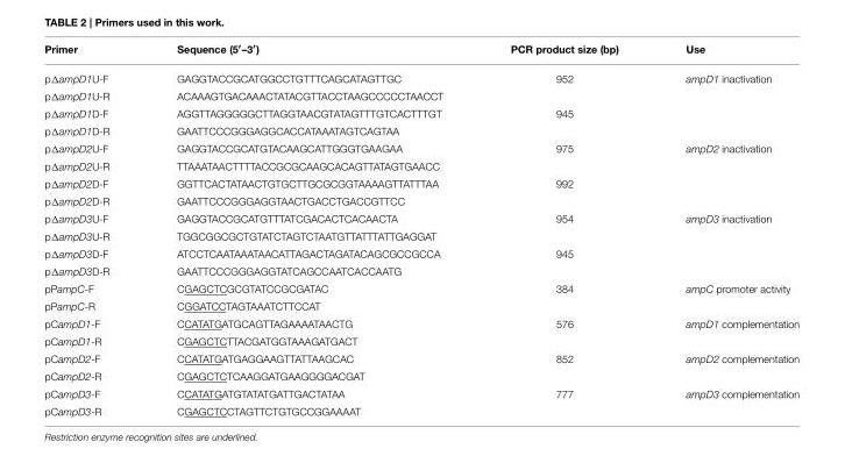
<table><thead><tr><td>Primer</td><td>Sequence (5′–3′)</td><td>PCR product size (bp)</td><td>Use</td></tr></thead><tbody><tr><td>pΔampD1U-F</td><td>GAGGTACCGCATGGCCTGTTTCAGCATAGTTGC</td><td>952</td><td>ampD1 inactivation</td></tr><tr><td>pΔampD1U-R</td><td>ACAAAGTGACAAACTATACGTTACCTAAGCCCCCTAACCT</td><td></td><td></td></tr><tr><td>pΔampD1D-F</td><td>AGGTTAGGGGGCTTAGGTAACGTATAGTTTGTCACTTTGT</td><td>945</td><td></td></tr><tr><td>pΔampD1D-R</td><td>GAATTCCCGGGAGGCACCATAAATAGTCAGTAA</td><td></td><td></td></tr><tr><td>pΔampD2U-F</td><td>GAGGTACCGCATGTACAAGCATTGGGTGAAGAA</td><td>975</td><td>ampD2 inactivation</td></tr><tr><td>pΔampD2U-R</td><td>TTAAATAACTTTTACCGCGCAAGCACAGTTATAGTGAACC</td><td></td><td></td></tr><tr><td>pΔampD2D-F</td><td>GGTTCACTATAACTGTGCTTGCGCGGTAAAAGTTATTTAA</td><td>992</td><td></td></tr><tr><td>pΔampD2D-R</td><td>GAATTCCCGGGAGGTAACTGACCTGACCGTTCC</td><td></td><td></td></tr><tr><td>pΔampD3U-F</td><td>GAGGTACCGCATGTTTATCGACACTCACAACTA</td><td>954</td><td>ampD3 inactivation</td></tr><tr><td>pΔampD3U-R</td><td>TGGCGGCGCTGTATCTAGTCTAATGTTATTTATTGAGGAT</td><td></td><td></td></tr><tr><td>pΔampD3D-F</td><td>ATCCTCAATAAATAACATTAGACTAGATACAGCGCCGCCA</td><td>945</td><td></td></tr><tr><td>pΔampD3D-R</td><td>GAATTCCCGGGAGGTATCAGCCAATCACCAATG</td><td></td><td></td></tr><tr><td>pPampC-F</td><td>CGAGCTCGCGTATCCGCGATAC</td><td>384</td><td>ampC promoter activity</td></tr><tr><td>pPampC-R</td><td>CGGATCCTAGTAAATCTTCCAT</td><td></td><td></td></tr><tr><td>pCampD1-F</td><td>CCATATGATGCAGTTAGAAAATAACTG</td><td>576</td><td>ampD1 complementation</td></tr><tr><td>pCampD1-R</td><td>CGAGCTCTTACGATGGTAAAGATGACT</td><td></td><td></td></tr><tr><td>pCampD2-F</td><td>CCATATGATGAGGAAGTTATTAAGCAC</td><td>852</td><td>ampD2 complementation</td></tr><tr><td>pCampD2-R</td><td>CGAGCTCTCAAGGATGAAGGGGACGAT</td><td></td><td></td></tr><tr><td>pCampD3-F</td><td>CCATATGATGTATATGATTGACTATAA</td><td>777</td><td>ampD3 complementation</td></tr><tr><td>pCampD3-R</td><td>CGAGCTCCTAGTTCTGTGCCGGAAAAT</td><td></td><td></td></tr></tbody></table>